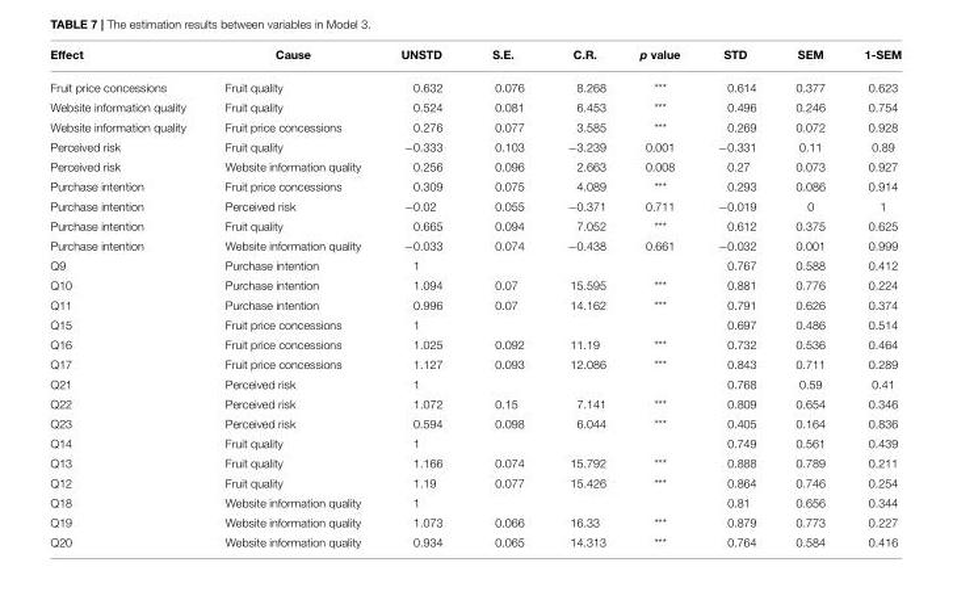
<table><thead><tr><td>Effect</td><td>Cause</td><td>UNSTD</td><td>S.E.</td><td>C.R.</td><td>p value</td><td>STD</td><td>SEM</td><td>1-SEM</td></tr></thead><tbody><tr><td>Fruit price concessions</td><td>Fruit quality</td><td>0.632</td><td>0.076</td><td>8.268</td><td>***</td><td>0.614</td><td>0.377</td><td>0.623</td></tr><tr><td>Website information quality</td><td>Fruit quality</td><td>0.524</td><td>0.081</td><td>6.453</td><td>***</td><td>0.496</td><td>0.246</td><td>0.754</td></tr><tr><td>Website information quality</td><td>Fruit price concessions</td><td>0.276</td><td>0.077</td><td>3.585</td><td>***</td><td>0.269</td><td>0.072</td><td>0.928</td></tr><tr><td>Perceived risk</td><td>Fruit quality</td><td>−0.333</td><td>0.103</td><td>−3.239</td><td>0.001</td><td>−0.331</td><td>0.11</td><td>0.89</td></tr><tr><td>Perceived risk</td><td>Website information quality</td><td>0.256</td><td>0.096</td><td>2.663</td><td>0.008</td><td>0.27</td><td>0.073</td><td>0.927</td></tr><tr><td>Purchase intention</td><td>Fruit price concessions</td><td>0.309</td><td>0.075</td><td>4.089</td><td>***</td><td>0.293</td><td>0.086</td><td>0.914</td></tr><tr><td>Purchase intention</td><td>Perceived risk</td><td>−0.02</td><td>0.055</td><td>−0.371</td><td>0.711</td><td>−0.019</td><td>0</td><td>1</td></tr><tr><td>Purchase intention</td><td>Fruit quality</td><td>0.665</td><td>0.094</td><td>7.052</td><td>***</td><td>0.612</td><td>0.375</td><td>0.625</td></tr><tr><td>Purchase intention</td><td>Website information quality</td><td>−0.033</td><td>0.074</td><td>−0.438</td><td>0.661</td><td>−0.032</td><td>0.001</td><td>0.999</td></tr><tr><td>Q9</td><td>Purchase intention</td><td>1</td><td></td><td></td><td></td><td>0.767</td><td>0.588</td><td>0.412</td></tr><tr><td>Q10</td><td>Purchase intention</td><td>1.094</td><td>0.07</td><td>15.595</td><td>***</td><td>0.881</td><td>0.776</td><td>0.224</td></tr><tr><td>Q11</td><td>Purchase intention</td><td>0.996</td><td>0.07</td><td>14.162</td><td>***</td><td>0.791</td><td>0.626</td><td>0.374</td></tr><tr><td>Q15</td><td>Fruit price concessions</td><td>1</td><td></td><td></td><td></td><td>0.697</td><td>0.486</td><td>0.514</td></tr><tr><td>Q16</td><td>Fruit price concessions</td><td>1.025</td><td>0.092</td><td>11.19</td><td>***</td><td>0.732</td><td>0.536</td><td>0.464</td></tr><tr><td>Q17</td><td>Fruit price concessions</td><td>1.127</td><td>0.093</td><td>12.086</td><td>***</td><td>0.843</td><td>0.711</td><td>0.289</td></tr><tr><td>Q21</td><td>Perceived risk</td><td>1</td><td></td><td></td><td></td><td>0.768</td><td>0.59</td><td>0.41</td></tr><tr><td>Q22</td><td>Perceived risk</td><td>1.072</td><td>0.15</td><td>7.141</td><td>***</td><td>0.809</td><td>0.654</td><td>0.346</td></tr><tr><td>Q23</td><td>Perceived risk</td><td>0.594</td><td>0.098</td><td>6.044</td><td>***</td><td>0.405</td><td>0.164</td><td>0.836</td></tr><tr><td>Q14</td><td>Fruit quality</td><td>1</td><td></td><td></td><td></td><td>0.749</td><td>0.561</td><td>0.439</td></tr><tr><td>Q13</td><td>Fruit quality</td><td>1.166</td><td>0.074</td><td>15.792</td><td>***</td><td>0.888</td><td>0.789</td><td>0.211</td></tr><tr><td>Q12</td><td>Fruit quality</td><td>1.19</td><td>0.077</td><td>15.426</td><td>***</td><td>0.864</td><td>0.746</td><td>0.254</td></tr><tr><td>Q18</td><td>Website information quality</td><td>1</td><td></td><td></td><td></td><td>0.81</td><td>0.656</td><td>0.344</td></tr><tr><td>Q19</td><td>Website information quality</td><td>1.073</td><td>0.066</td><td>16.33</td><td>***</td><td>0.879</td><td>0.773</td><td>0.227</td></tr><tr><td>Q20</td><td>Website information quality</td><td>0.934</td><td>0.065</td><td>14.313</td><td>***</td><td>0.764</td><td>0.584</td><td>0.416</td></tr></tbody></table>